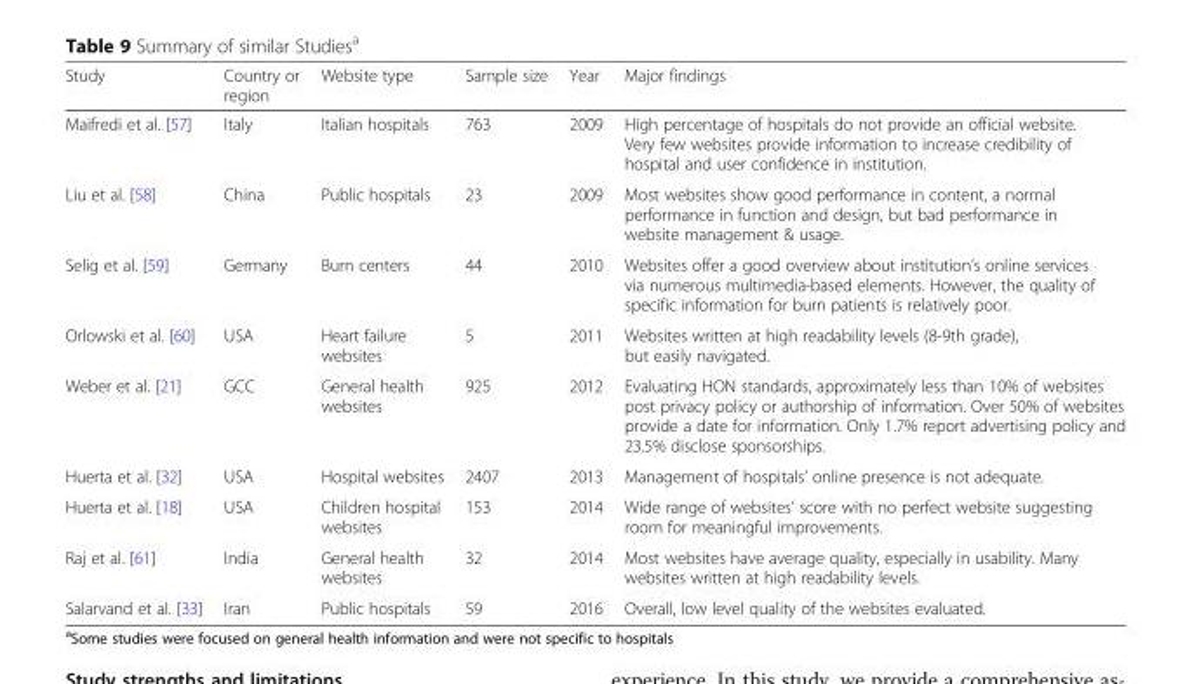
<table><thead><tr><td>Study</td><td>Country or region</td><td>Website type</td><td>Sample size</td><td>Year</td><td>Major findings</td></tr></thead><tbody><tr><td>Maifredi et al. [57]</td><td>Italy</td><td>Italian hospitals</td><td>763</td><td>2009</td><td>High percentage of hospitals do not provide an official website. Very few websites provide information to increase credibility of hospital and user confidence in institution.</td></tr><tr><td>Liu et al. [58]</td><td>China</td><td>Public hospitals</td><td>23</td><td>2009</td><td>Most websites show good performance in content, a normal performance in function and design, but bad performance in website management &amp; usage.</td></tr><tr><td>Selig et al. [59]</td><td>Germany</td><td>Burn centers</td><td>44</td><td>2010</td><td>Websites offer a good overview about institution’s online services via numerous multimedia-based elements. However, the quality of specific information for burn patients is relatively poor.</td></tr><tr><td>Orlowski et al. [60]</td><td>USA</td><td>Heart failure websites</td><td>5</td><td>2011</td><td>Websites written at high readability levels (8-9th grade), but easily navigated.</td></tr><tr><td>Weber et al. [21]</td><td>GCC</td><td>General health websites</td><td>925</td><td>2012</td><td>Evaluating HON standards, approximately less than 10% of websites post privacy policy or authorship of information. Over 50% of websites provide a date for information. Only 1.7% report advertising policy and 23.5% disclose sponsorships.</td></tr><tr><td>Huerta et al. [32]</td><td>USA</td><td>Hospital websites</td><td>2407</td><td>2013</td><td>Management of hospitals’ online presence is not adequate.</td></tr><tr><td>Huerta et al. [18]</td><td>USA</td><td>Children hospital websites</td><td>153</td><td>2014</td><td>Wide range of websites’ score with no perfect website suggesting room for meaningful improvements.</td></tr><tr><td>Raj et al. [61]</td><td>India</td><td>General health websites</td><td>32</td><td>2014</td><td>Most websites have average quality, especially in usability. Many websites written at high readability levels.</td></tr><tr><td>Salarvand et al. [33]</td><td>Iran</td><td>Public hospitals</td><td>59</td><td>2016</td><td>Overall, low level quality of the websites evaluated.</td></tr></tbody></table>